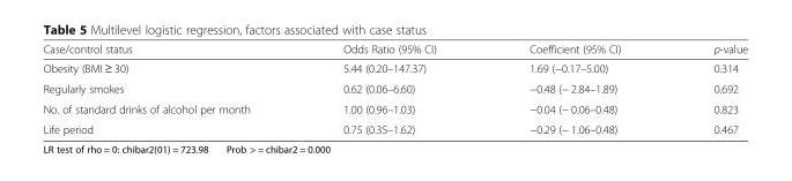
<table><thead><tr><td>Case/control status</td><td>Odds Ratio (95% CI)</td><td>Coefficient (95% CI)</td><td>p-value</td></tr></thead><tbody><tr><td>Obesity (BMI ≥ 30)</td><td>5.44 (0.20–147.37)</td><td>1.69 (−0.17–5.00)</td><td>0.314</td></tr><tr><td>Regularly smokes</td><td>0.62 (0.06–6.60)</td><td>−0.48 (− 2.84–1.89)</td><td>0.692</td></tr><tr><td>No. of standard drinks of alcohol per month</td><td>1.00 (0.96–1.03)</td><td>−0.04 (− 0.06–0.48)</td><td>0.823</td></tr><tr><td>Life period</td><td>0.75 (0.35–1.62)</td><td>−0.29 (− 1.06–0.48)</td><td>0.467</td></tr></tbody></table>